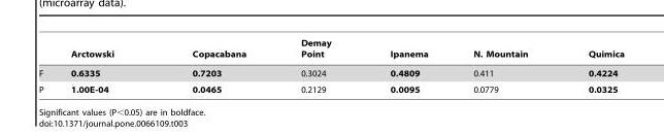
<table><thead><tr><td></td><td>Arctowski</td><td>Copacabana</td><td>Demay Point</td><td>Ipanema</td><td>N. Mountain</td><td>Quimica</td></tr></thead><tbody><tr><td>F</td><td>0.6335</td><td>0.7203</td><td>0.3024</td><td>0.4809</td><td>0.411</td><td>0.4224</td></tr><tr><td>P</td><td>1.00E-04</td><td>0.0465</td><td>0.2129</td><td>0.0095</td><td>0.0779</td><td>0.0325</td></tr></tbody></table>